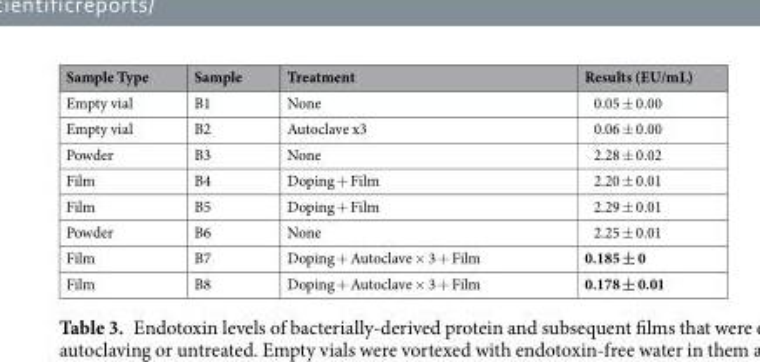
<table><thead><tr><td>Sample Type</td><td>Sample</td><td>Treatment</td><td>Results (EU/mL)</td></tr></thead><tbody><tr><td>Empty vial</td><td>B1</td><td>None</td><td>0.05 ± 0.00</td></tr><tr><td>Empty vial</td><td>B2</td><td>Autoclave x3</td><td>0.06 ± 0.00</td></tr><tr><td>Powder</td><td>B3</td><td>None</td><td>2.28 ± 0.02</td></tr><tr><td>Film</td><td>B4</td><td>Doping + Film</td><td>2.20 ± 0.01</td></tr><tr><td>Film</td><td>B5</td><td>Doping + Film</td><td>2.29 ± 0.01</td></tr><tr><td>Powder</td><td>B6</td><td>None</td><td>2.25 ± 0.01</td></tr><tr><td>Film</td><td>B7</td><td>Doping + Autoclave × 3 + Film</td><td>0.185 ± 0</td></tr><tr><td>Film</td><td>B8</td><td>Doping + Autoclave × 3 + Film</td><td>0.178 ± 0.01</td></tr></tbody></table>